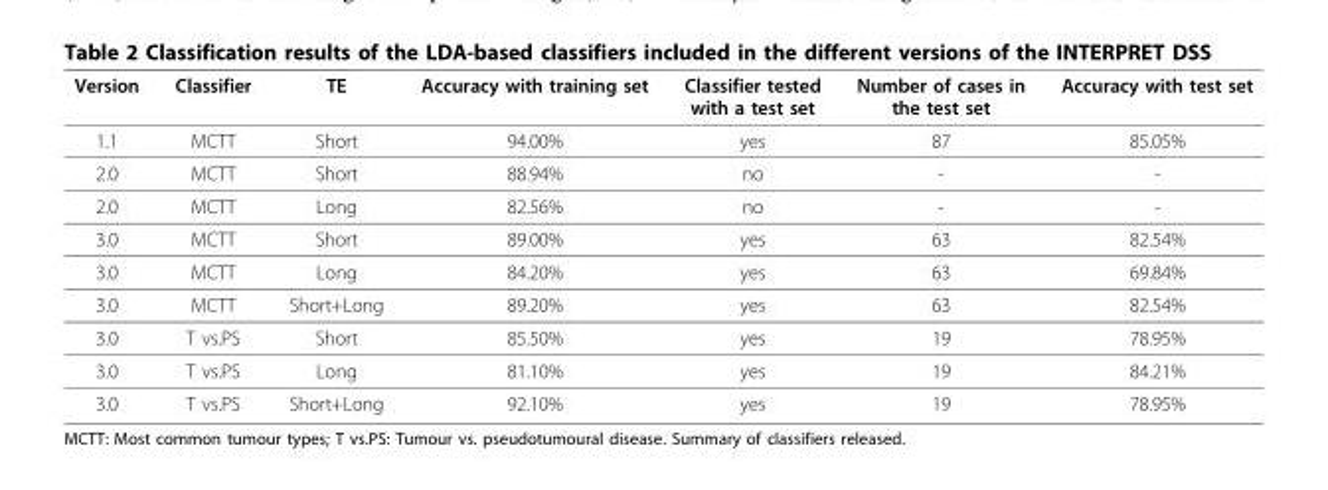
<table><thead><tr><td>Version</td><td>Classifier</td><td>TE</td><td>Accuracy with training set</td><td>Classifier tested with a test set</td><td>Number of cases in the test set</td><td>Accuracy with test set</td></tr></thead><tbody><tr><td>1.1</td><td>MCTT</td><td>Short</td><td>94.00%</td><td>yes</td><td>87</td><td>85.05%</td></tr><tr><td>2.0</td><td>MCTT</td><td>Short</td><td>88.94%</td><td>no</td><td>-</td><td>-</td></tr><tr><td>2.0</td><td>MCTT</td><td>Long</td><td>82.56%</td><td>no</td><td>-</td><td>-</td></tr><tr><td>3.0</td><td>MCTT</td><td>Short</td><td>89.00%</td><td>yes</td><td>63</td><td>82.54%</td></tr><tr><td>3.0</td><td>MCTT</td><td>Long</td><td>84.20%</td><td>yes</td><td>63</td><td>69.84%</td></tr><tr><td>3.0</td><td>MCTT</td><td>Short+Long</td><td>89.20%</td><td>yes</td><td>63</td><td>82.54%</td></tr><tr><td>3.0</td><td>T vs.PS</td><td>Short</td><td>85.50%</td><td>yes</td><td>19</td><td>78.95%</td></tr><tr><td>3.0</td><td>T vs.PS</td><td>Long</td><td>81.10%</td><td>yes</td><td>19</td><td>84.21%</td></tr><tr><td>3.0</td><td>T vs.PS</td><td>Short+Long</td><td>92.10%</td><td>yes</td><td>19</td><td>78.95%</td></tr></tbody></table>